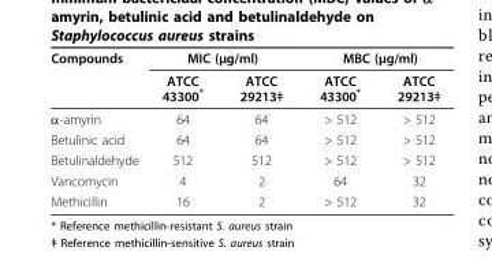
<table><thead><tr><td rowspan="2">Compounds</td><td colspan="2">MIC (μg/ml)</td><td colspan="2">MBC (μg/ml)</td></tr><tr><td>ATCC 43300*</td><td>ATCC 29213ǂ</td><td>ATCC 43300*</td><td>ATCC 29213ǂ</td></tr></thead><tbody><tr><td>α-amyrin</td><td>64</td><td>64</td><td>&gt; 512</td><td>&gt; 512</td></tr><tr><td>Betulinic acid</td><td>64</td><td>64</td><td>&gt; 512</td><td>&gt; 512</td></tr><tr><td>Betulinaldehyde</td><td>512</td><td>512</td><td>&gt; 512</td><td>&gt; 512</td></tr><tr><td>Vancomycin</td><td>4</td><td>2</td><td>64</td><td>32</td></tr><tr><td>Methicillin</td><td>16</td><td>2</td><td>&gt; 512</td><td>32</td></tr></tbody></table>